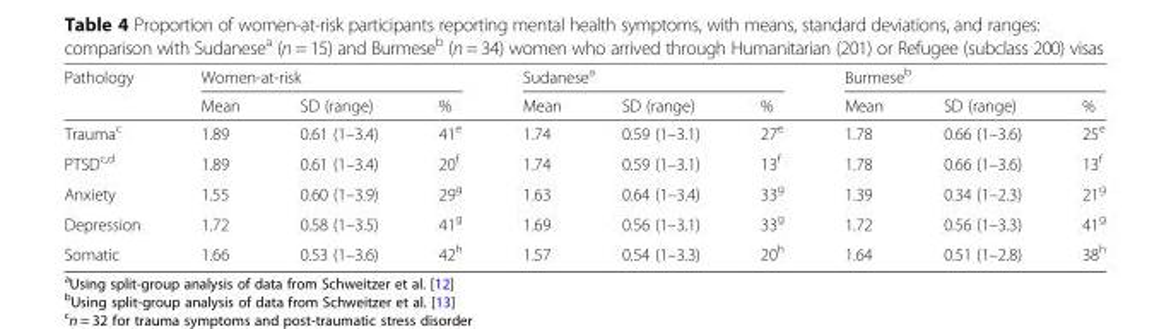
<table><thead><tr><td rowspan="2">Pathology</td><td colspan="3">Women-at-risk</td><td colspan="3">Sudanese<sup>a</sup></td><td colspan="3">Burmese<sup>b</sup></td></tr><tr><td>Mean</td><td>SD (range)</td><td>%</td><td>Mean</td><td>SD (range)</td><td>%</td><td>Mean</td><td>SD (range)</td><td>%</td></tr></thead><tbody><tr><td>Trauma<sup>c</sup></td><td>1.89</td><td>0.61 (1–3.4)</td><td>41<sup>e</sup></td><td>1.74</td><td>0.59 (1–3.1)</td><td>27<sup>e</sup></td><td>1.78</td><td>0.66 (1–3.6)</td><td>25<sup>e</sup></td></tr><tr><td>PTSD<sup>c,d</sup></td><td>1.89</td><td>0.61 (1–3.4)</td><td>20<sup>f</sup></td><td>1.74</td><td>0.59 (1–3.1)</td><td>13<sup>f</sup></td><td>1.78</td><td>0.66 (1–3.6)</td><td>13<sup>f</sup></td></tr><tr><td>Anxiety</td><td>1.55</td><td>0.60 (1–3.9)</td><td>29<sup>g</sup></td><td>1.63</td><td>0.64 (1–3.4)</td><td>33<sup>g</sup></td><td>1.39</td><td>0.34 (1–2.3)</td><td>21<sup>g</sup></td></tr><tr><td>Depression</td><td>1.72</td><td>0.58 (1–3.5)</td><td>41<sup>g</sup></td><td>1.69</td><td>0.56 (1–3.1)</td><td>33<sup>g</sup></td><td>1.72</td><td>0.56 (1–3.3)</td><td>41<sup>g</sup></td></tr><tr><td>Somatic</td><td>1.66</td><td>0.53 (1–3.6)</td><td>42<sup>h</sup></td><td>1.57</td><td>0.54 (1–3.3)</td><td>20<sup>h</sup></td><td>1.64</td><td>0.51 (1–2.8)</td><td>38<sup>h</sup></td></tr></tbody></table>